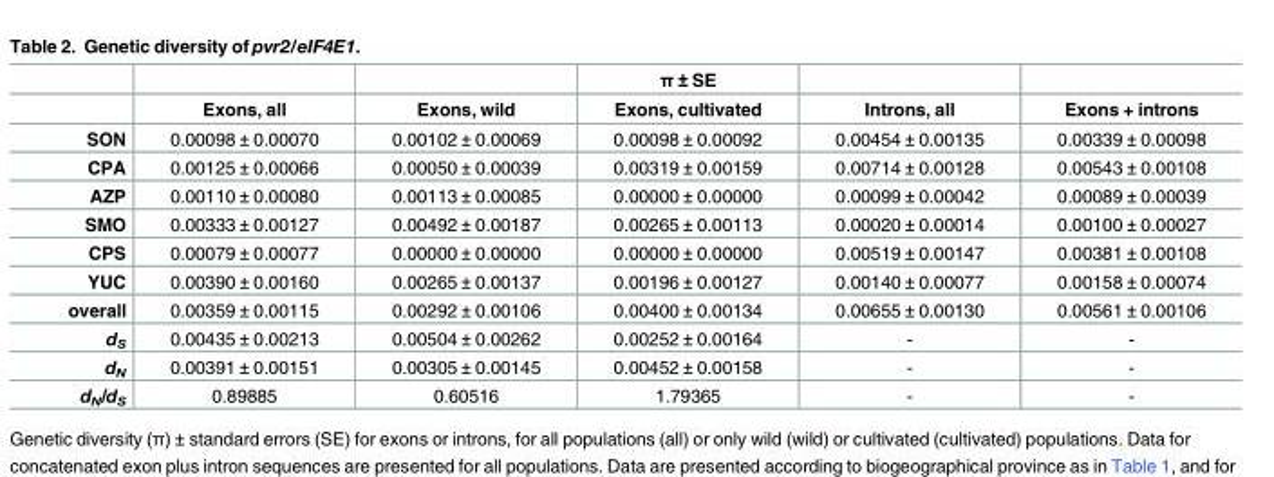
<table><thead><tr><td rowspan="2"></td><td rowspan="2">Exons, all</td><td rowspan="2">Exons, wild</td><td rowspan="2">π ± SE Exons, cultivated</td><td rowspan="2">Introns, all</td><td rowspan="2">Exons + introns</td></tr><tr></tr></thead><tbody><tr><td>SON</td><td>0.00098 ± 0.00070</td><td>0.00102 ± 0.00069</td><td>0.00098 ± 0.00092</td><td>0.00454 ± 0.00135</td><td>0.00339 ± 0.00098</td></tr><tr><td>CPA</td><td>0.00125 ± 0.00066</td><td>0.00050 ± 0.00039</td><td>0.00319 ± 0.00159</td><td>0.00714 ± 0.00128</td><td>0.00543 ± 0.00108</td></tr><tr><td>AZP</td><td>0.00110 ± 0.00080</td><td>0.00113 ± 0.00085</td><td>0.00000 ± 0.00000</td><td>0.00099 ± 0.00042</td><td>0.00089 ± 0.00039</td></tr><tr><td>SMO</td><td>0.00333 ± 0.00127</td><td>0.00492 ± 0.00187</td><td>0.00265 ± 0.00113</td><td>0.00020 ± 0.00014</td><td>0.00100 ± 0.00027</td></tr><tr><td>CPS</td><td>0.00079 ± 0.00077</td><td>0.00000 ± 0.00000</td><td>0.00000 ± 0.00000</td><td>0.00519 ± 0.00147</td><td>0.00381 ± 0.00108</td></tr><tr><td>YUC</td><td>0.00390 ± 0.00160</td><td>0.00265 ± 0.00137</td><td>0.00196 ± 0.00127</td><td>0.00140 ± 0.00077</td><td>0.00158 ± 0.00074</td></tr><tr><td>overall</td><td>0.00359 ± 0.00115</td><td>0.00292 ± 0.00106</td><td>0.00400 ± 0.00134</td><td>0.00655 ± 0.00130</td><td>0.00561 ± 0.00106</td></tr><tr><td>d<sub>S</sub></td><td>0.00435 ± 0.00213</td><td>0.00504 ± 0.00262</td><td>0.00252 ± 0.00164</td><td>-</td><td>-</td></tr><tr><td>d<sub>N</sub></td><td>0.00391 ± 0.00151</td><td>0.00305 ± 0.00145</td><td>0.00452 ± 0.00158</td><td>-</td><td>-</td></tr><tr><td>d<sub>N</sub>/d<sub>S</sub></td><td>0.89885</td><td>0.60516</td><td>1.79365</td><td>-</td><td>-</td></tr></tbody></table>